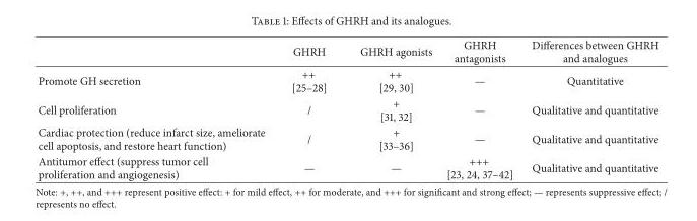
<table><thead><tr><td></td><td>GHRH</td><td>GHRH agonists</td><td>GHRH antagonists</td><td>Differences between GHRH and analogues</td></tr></thead><tbody><tr><td>Promote GH secretion</td><td>++ [25–28]</td><td>++ [29, 30]</td><td>—</td><td>Quantitative</td></tr><tr><td>Cell proliferation</td><td>/</td><td>+ [31, 32]</td><td>—</td><td>Qualitative and quantitative</td></tr><tr><td>Cardiac protection (reduce infarct size, ameliorate cell apoptosis, and restore heart function)</td><td>/</td><td>+ [33–36]</td><td>—</td><td>Qualitative and quantitative</td></tr><tr><td>Antitumor effect (suppress tumor cell proliferation and angiogenesis)</td><td>—</td><td>—</td><td>+++ [23, 24, 37–42]</td><td>Qualitative and quantitative</td></tr></tbody></table>